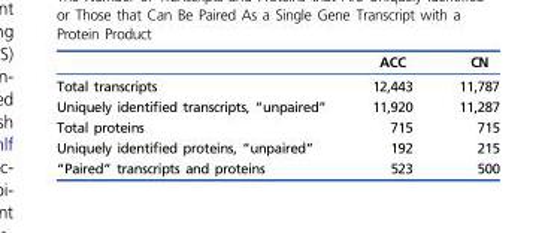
<table><thead><tr><td></td><td>ACC</td><td>CN</td></tr></thead><tbody><tr><td>Total transcripts</td><td>12,443</td><td>11,787</td></tr><tr><td>Uniquely identified transcripts, “unpaired”</td><td>11,920</td><td>11,287</td></tr><tr><td>Total proteins</td><td>715</td><td>715</td></tr><tr><td>Uniquely identified proteins, “unpaired”</td><td>192</td><td>215</td></tr><tr><td>“Paired” transcripts and proteins</td><td>523</td><td>500</td></tr></tbody></table>